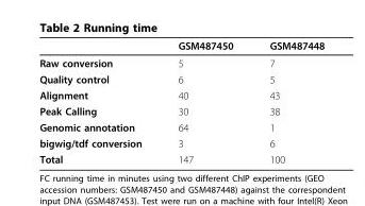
<table><thead><tr><td></td><td>GSM487450</td><td>GSM487448</td></tr></thead><tbody><tr><td>Raw conversion</td><td>5</td><td>7</td></tr><tr><td>Quality control</td><td>6</td><td>5</td></tr><tr><td>Alignment</td><td>40</td><td>43</td></tr><tr><td>Peak Calling</td><td>30</td><td>38</td></tr><tr><td>Genomic annotation</td><td>64</td><td>1</td></tr><tr><td>bigwig/tdf conversion</td><td>3</td><td>6</td></tr><tr><td>Total</td><td>147</td><td>100</td></tr></tbody></table>